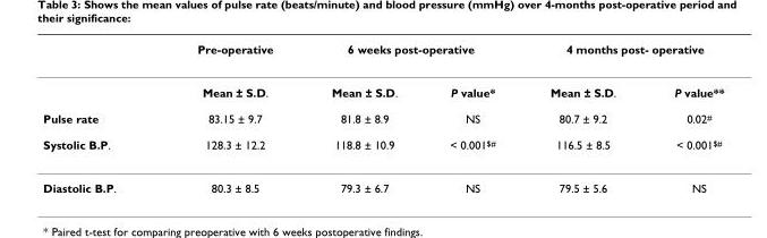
<table><thead><tr><td rowspan="2"></td><td rowspan="2">Pre-operative Mean ± S.D.</td><td colspan="2">6 weeks post-operative</td><td colspan="2">4 months post- operative</td></tr><tr><td>Mean ± S.D.</td><td>P value*</td><td>Mean ± S.D.</td><td>P value**</td></tr></thead><tbody><tr><td>Pulse rate</td><td>83.15 ± 9.7</td><td>81.8 ± 8.9</td><td>NS</td><td>80.7 ± 9.2</td><td>0.02<sup>#</sup></td></tr><tr><td>Systolic B.P.</td><td>128.3 ± 12.2</td><td>118.8 ± 10.9</td><td>&lt; 0.001<sup>$#</sup></td><td>116.5 ± 8.5</td><td>&lt; 0.001<sup>$#</sup></td></tr><tr><td>Diastolic B.P.</td><td>80.3 ± 8.5</td><td>79.3 ± 6.7</td><td>NS</td><td>79.5 ± 5.6</td><td>NS</td></tr></tbody></table>